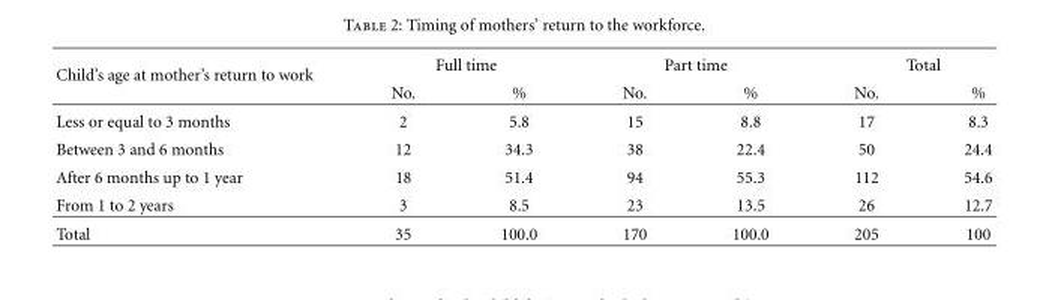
<table><thead><tr><td rowspan="2">Child’s age at mother’s return to work</td><td colspan="2">Full time</td><td colspan="2">Part time</td><td colspan="2">Total</td></tr><tr><td>No.</td><td>%</td><td>No.</td><td>%</td><td>No.</td><td>%</td></tr></thead><tbody><tr><td>Less or equal to 3 months</td><td>2</td><td>5.8</td><td>15</td><td>8.8</td><td>17</td><td>8.3</td></tr><tr><td>Between 3 and 6 months</td><td>12</td><td>34.3</td><td>38</td><td>22.4</td><td>50</td><td>24.4</td></tr><tr><td>After 6 months up to 1 year</td><td>18</td><td>51.4</td><td>94</td><td>55.3</td><td>112</td><td>54.6</td></tr><tr><td>From 1 to 2 years</td><td>3</td><td>8.5</td><td>23</td><td>13.5</td><td>26</td><td>12.7</td></tr><tr><td>Total</td><td>35</td><td>100.0</td><td>170</td><td>100.0</td><td>205</td><td>100</td></tr></tbody></table>